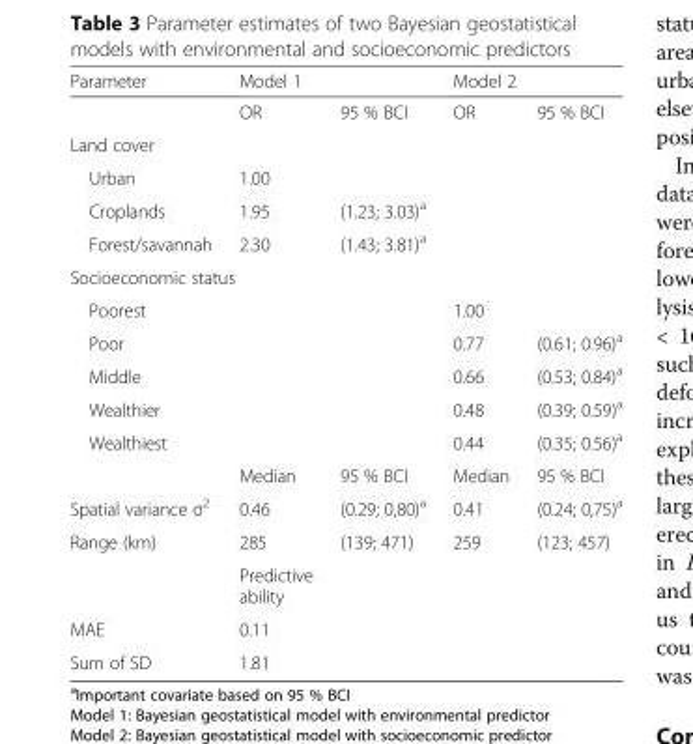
<table><thead><tr><td rowspan="2">Parameter</td><td colspan="2">Model 1</td><td colspan="2">Model 2</td></tr><tr><td>OR</td><td>95 % BCI</td><td>OR</td><td>95 % BCI</td></tr></thead><tbody><tr><td colspan="5">Land cover</td></tr><tr><td>Urban</td><td>1.00</td><td></td><td></td><td></td></tr><tr><td>Croplands</td><td>1.95</td><td>(1.23; 3.03)<sup>a</sup></td><td></td><td></td></tr><tr><td>Forest/savannah</td><td>2.30</td><td>(1.43; 3.81)<sup>a</sup></td><td></td><td></td></tr><tr><td colspan="5">Socioeconomic status</td></tr><tr><td>Poorest</td><td></td><td></td><td>1.00</td><td></td></tr><tr><td>Poor</td><td></td><td></td><td>0.77</td><td>(0.61; 0.96)<sup>a</sup></td></tr><tr><td>Middle</td><td></td><td></td><td>0.66</td><td>(0.53; 0.84)<sup>a</sup></td></tr><tr><td>Wealthier</td><td></td><td></td><td>0.48</td><td>(0.39; 0.59)<sup>a</sup></td></tr><tr><td rowspan="2">Wealthiest</td><td></td><td></td><td>0.44</td><td>(0.35; 0.56)<sup>a</sup></td></tr><tr><td>Median</td><td>95 % BCI</td><td>Median</td><td>95 % BCI</td></tr><tr><td>Spatial variance σ<sup>2</sup></td><td>0.46</td><td>(0.29; 0,80)<sup>a</sup></td><td>0.41</td><td>(0.24; 0,75)<sup>a</sup></td></tr><tr><td rowspan="2">Range (km)</td><td>285</td><td>(139; 471)</td><td>259</td><td>(123; 457)</td></tr><tr><td>Predictive ability</td><td></td><td></td><td></td></tr><tr><td>MAE</td><td>0.11</td><td></td><td></td><td></td></tr><tr><td>Sum of SD</td><td>1.81</td><td></td><td></td><td></td></tr></tbody></table>